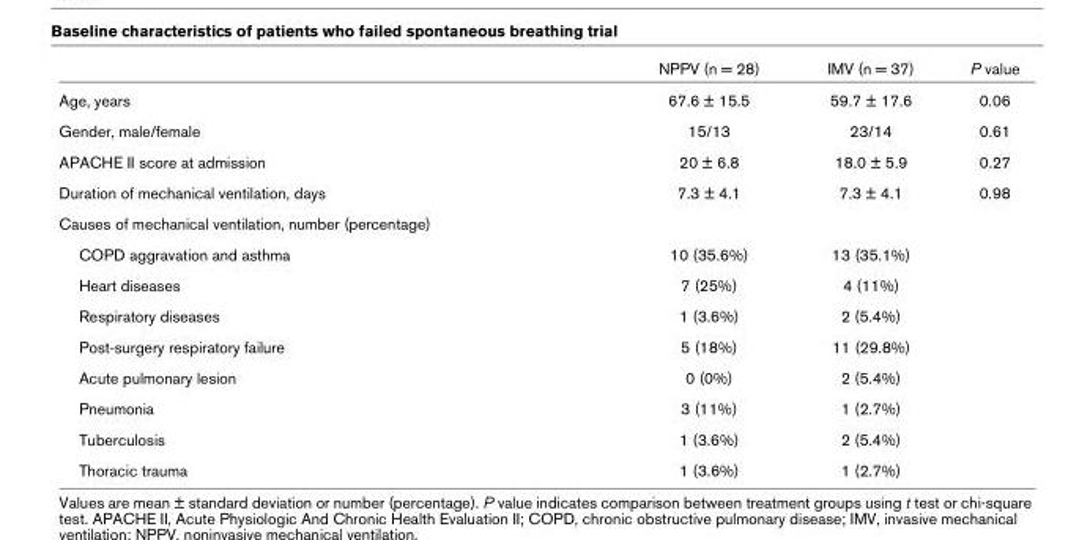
<table><thead><tr><td></td><td>NPPV (n = 28)</td><td>IMV (n = 37)</td><td>P value</td></tr></thead><tbody><tr><td>Age, years</td><td>67.6 ± 15.5</td><td>59.7 ± 17.6</td><td>0.06</td></tr><tr><td>Gender, male/female</td><td>15/13</td><td>23/14</td><td>0.61</td></tr><tr><td>APACHE II score at admission</td><td>20 ± 6.8</td><td>18.0 ± 5.9</td><td>0.27</td></tr><tr><td>Duration of mechanical ventilation, days</td><td>7.3 ± 4.1</td><td>7.3 ± 4.1</td><td>0.98</td></tr><tr><td colspan="4">Causes of mechanical ventilation, number (percentage)</td></tr><tr><td>COPD aggravation and asthma</td><td>10 (35.6%)</td><td>13 (35.1%)</td><td></td></tr><tr><td>Heart diseases</td><td>7 (25%)</td><td>4 (11%)</td><td></td></tr><tr><td>Respiratory diseases</td><td>1 (3.6%)</td><td>2 (5.4%)</td><td></td></tr><tr><td>Post-surgery respiratory failure</td><td>5 (18%)</td><td>11 (29.8%)</td><td></td></tr><tr><td>Acute pulmonary lesion</td><td>0 (0%)</td><td>2 (5.4%)</td><td></td></tr><tr><td>Pneumonia</td><td>3 (11%)</td><td>1 (2.7%)</td><td></td></tr><tr><td>Tuberculosis</td><td>1 (3.6%)</td><td>2 (5.4%)</td><td></td></tr><tr><td>Thoracic trauma</td><td>1 (3.6%)</td><td>1 (2.7%)</td><td></td></tr></tbody></table>